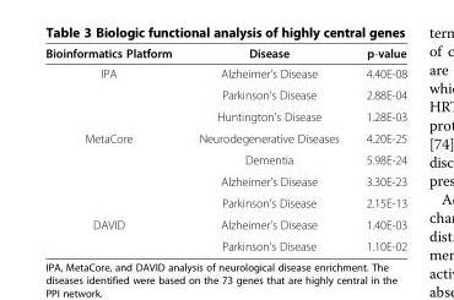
<table><thead><tr><td>Bioinformatics Platform</td><td>Disease</td><td>p-value</td></tr></thead><tbody><tr><td rowspan="3">IPA</td><td>Alzheimer&#x27;s Disease</td><td>4.40E-08</td></tr><tr><td>Parkinson&#x27;s Disease</td><td>2.88E-04</td></tr><tr><td>Huntington&#x27;s Disease</td><td>1.28E-03</td></tr><tr><td rowspan="4">MetaCore</td><td>Neurodegenerative Diseases</td><td>4.20E-25</td></tr><tr><td>Dementia</td><td>5.98E-24</td></tr><tr><td>Alzheimer&#x27;s Disease</td><td>3.30E-23</td></tr><tr><td>Parkinson&#x27;s Disease</td><td>2.15E-13</td></tr><tr><td rowspan="2">DAVID</td><td>Alzheimer&#x27;s Disease</td><td>1.40E-03</td></tr><tr><td>Parkinson&#x27;s Disease</td><td>1.10E-02</td></tr></tbody></table>